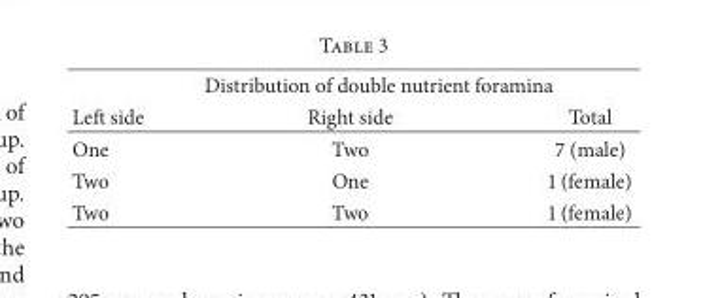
<table><thead><tr><td colspan="3">Distribution of double nutrient foramina</td></tr><tr><td>Left side</td><td>Right side</td><td>Total</td></tr></thead><tbody><tr><td>One</td><td>Two</td><td>7 (male)</td></tr><tr><td>Two</td><td>One</td><td>1 (female)</td></tr><tr><td>Two</td><td>Two</td><td>1 (female)</td></tr></tbody></table>